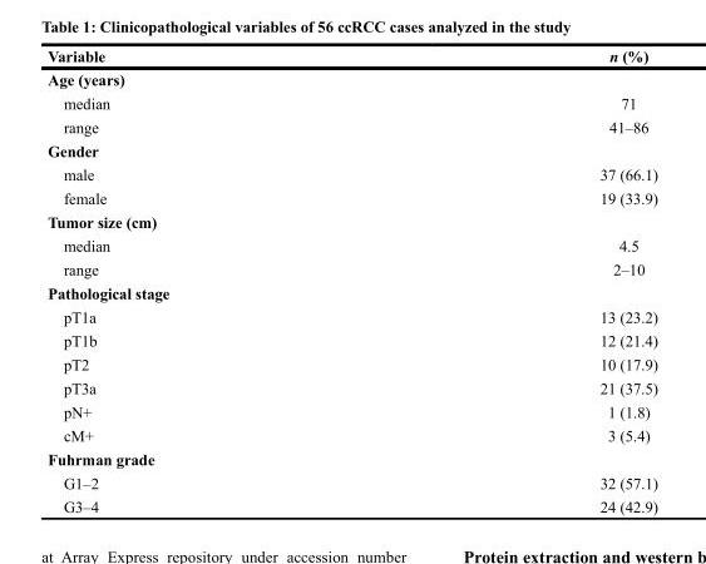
<table><thead><tr><td>Variable</td><td>n (%)</td></tr></thead><tbody><tr><td colspan="2">Age (years)</td></tr><tr><td>median</td><td>71</td></tr><tr><td>range</td><td>41–86</td></tr><tr><td colspan="2">Gender</td></tr><tr><td>male</td><td>37 (66.1)</td></tr><tr><td>female</td><td>19 (33.9)</td></tr><tr><td colspan="2">Tumor size (cm)</td></tr><tr><td>median</td><td>4.5</td></tr><tr><td>range</td><td>2–10</td></tr><tr><td colspan="2">Pathological stage</td></tr><tr><td>pT1a</td><td>13 (23.2)</td></tr><tr><td>pT1b</td><td>12 (21.4)</td></tr><tr><td>pT2</td><td>10 (17.9)</td></tr><tr><td>pT3a</td><td>21 (37.5)</td></tr><tr><td>pN+</td><td>1 (1.8)</td></tr><tr><td>cM+</td><td>3 (5.4)</td></tr><tr><td colspan="2">Fuhrman grade</td></tr><tr><td>G1–2</td><td>32 (57.1)</td></tr><tr><td>G3–4</td><td>24 (42.9)</td></tr></tbody></table>